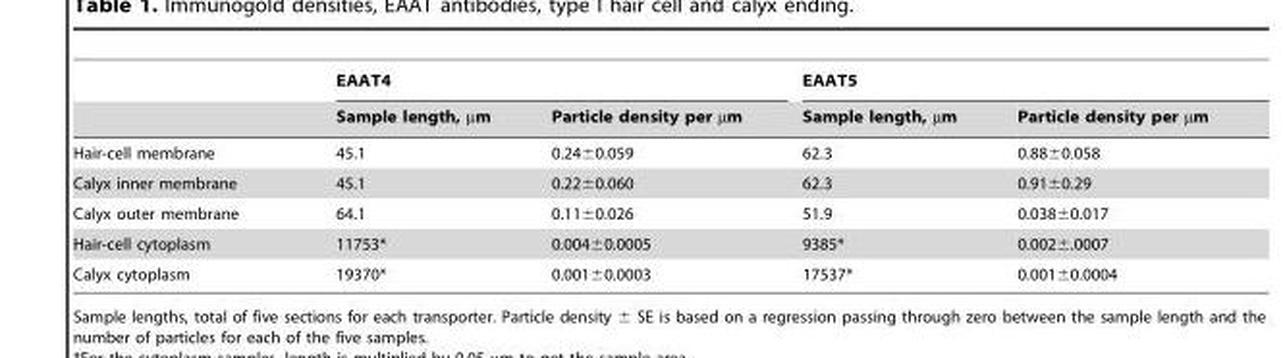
<table><thead><tr><td rowspan="2"></td><td colspan="2">EAAT4</td><td colspan="2">EAAT5</td></tr><tr><td>Sample length, µm</td><td>Particle density per µm</td><td>Sample length, µm</td><td>Particle density per µm</td></tr></thead><tbody><tr><td>Hair-cell membrane</td><td>45.1</td><td>0.24±0.059</td><td>62.3</td><td>0.88±0.058</td></tr><tr><td>Calyx inner membrane</td><td>45.1</td><td>0.22±0.060</td><td>62.3</td><td>0.91±0.29</td></tr><tr><td>Calyx outer membrane</td><td>64.1</td><td>0.11±0.026</td><td>51.9</td><td>0.038±0.017</td></tr><tr><td>Hair-cell cytoplasm</td><td>11753*</td><td>0.004±0.0005</td><td>9385*</td><td>0.002±.0007</td></tr><tr><td>Calyx cytoplasm</td><td>19370*</td><td>0.001±0.0003</td><td>17537*</td><td>0.001±0.0004</td></tr></tbody></table>